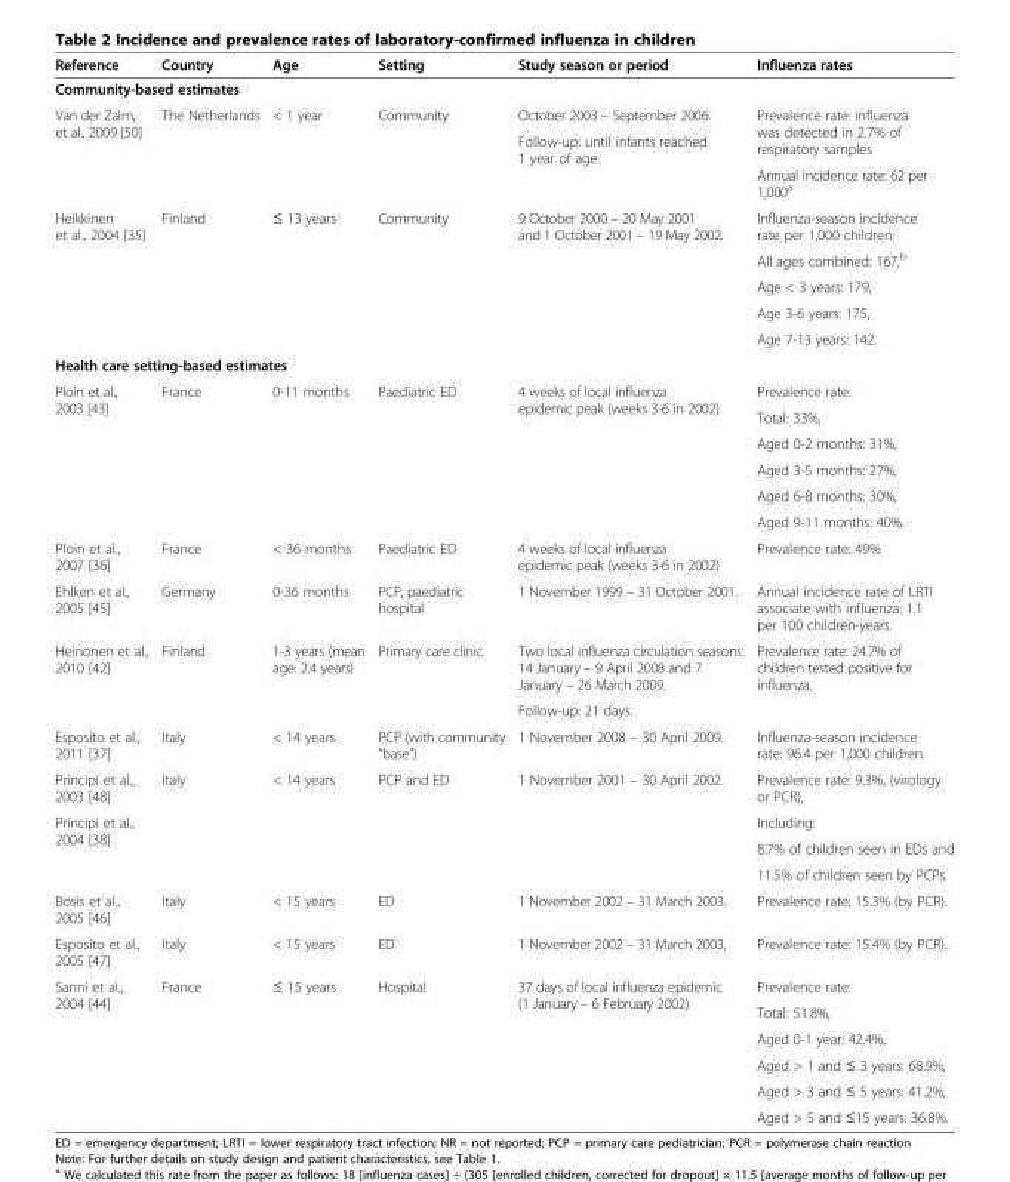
<table><thead><tr><td>Reference</td><td>Country</td><td>Age</td><td>Setting</td><td>Study season or period</td><td>Influenza rates</td></tr></thead><tbody><tr><td colspan="6">Community-based estimates</td></tr><tr><td rowspan="3">Van der Zalm, et al., 2009 [50]</td><td rowspan="3">The Netherlands</td><td rowspan="3">&lt; 1 year</td><td rowspan="3">Community</td><td>October 2003 – September 2006.</td><td rowspan="2">Prevalence rate: influenza was detected in 2.7% of respiratory samples</td></tr><tr><td rowspan="2">Follow-up: until infants reached 1 year of age.</td></tr><tr><td>Annual incidence rate: 62 per 1,000<sup>a</sup></td></tr><tr><td rowspan="5">Heikkinen et al., 2004 [35]</td><td rowspan="5">Finland</td><td rowspan="5">≤ 13 years</td><td rowspan="5">Community</td><td rowspan="5">9 October 2000 – 20 May 2001 and 1 October 2001 – 19 May 2002.</td><td>Influenza-season incidence rate per 1,000 children:</td></tr><tr><td>All ages combined: 167,<sup>b</sup></td></tr><tr><td>Age &lt; 3 years: 179,</td></tr><tr><td>Age 3-6 years: 175,</td></tr><tr><td>Age 7-13 years: 142.</td></tr><tr><td colspan="6">Health care setting-based estimates</td></tr><tr><td rowspan="6">Ploin et al., 2003 [43]</td><td rowspan="6">France</td><td rowspan="6">0-11 months</td><td rowspan="6">Paediatric ED</td><td rowspan="6">4 weeks of local influenza epidemic peak (weeks 3-6 in 2002)</td><td>Prevalence rate:</td></tr><tr><td>Total: 33%,</td></tr><tr><td>Aged 0-2 months: 31%,</td></tr><tr><td>Aged 3-5 months: 27%,</td></tr><tr><td>Aged 6-8 months: 30%,</td></tr><tr><td>Aged 9-11 months: 40%.</td></tr><tr><td>Ploin et al., 2007 [36]</td><td>France</td><td>&lt; 36 months</td><td>Paediatric ED</td><td>4 weeks of local influenza epidemic peak (weeks 3-6 in 2002)</td><td>Prevalence rate: 49%</td></tr><tr><td>Ehlken et al., 2005 [45]</td><td>Germany</td><td>0-36 months</td><td>PCP, paediatric hospital</td><td>1 November 1999 – 31 October 2001.</td><td>Annual incidence rate of LRTI associate with influenza: 1.1 per 100 children-years.</td></tr><tr><td rowspan="2">Heinonen et al., 2010 [42]</td><td rowspan="2">Finland</td><td rowspan="2">1-3 years (mean age: 2.4 years)</td><td rowspan="2">Primary care clinic</td><td>Two local influenza circulation seasons: 14 January – 9 April 2008 and 7 January – 26 March 2009.</td><td rowspan="2">Prevalence rate: 24.7% of children tested positive for influenza.</td></tr><tr><td>Follow-up: 21 days.</td></tr><tr><td>Esposito et al., 2011 [37]</td><td>Italy</td><td>&lt; 14 years</td><td>PCP (with community “base”)</td><td>1 November 2008 – 30 April 2009.</td><td>Influenza-season incidence rate: 96.4 per 1,000 children.</td></tr><tr><td>Principi et al., 2003 [48]</td><td rowspan="4">Italy</td><td rowspan="4">&lt; 14 years</td><td rowspan="4">PCP and ED</td><td rowspan="4">1 November 2001 – 30 April 2002.</td><td>Prevalence rate: 9.3%, (virology or PCR),</td></tr><tr><td rowspan="3">Principi et al., 2004 [38]</td><td>Including:</td></tr><tr><td>8.7% of children seen in EDs and</td></tr><tr><td>11.5% of children seen by PCPs.</td></tr><tr><td>Bosis et al., 2005 [46]</td><td>Italy</td><td>&lt; 15 years</td><td>ED</td><td>1 November 2002 – 31 March 2003.</td><td>Prevalence rate; 15.3% (by PCR).</td></tr><tr><td>Esposito et al., 2005 [47]</td><td>Italy</td><td>&lt; 15 years</td><td>ED</td><td>1 November 2002 – 31 March 2003.</td><td>Prevalence rate: 15.4% (by PCR).</td></tr><tr><td rowspan="6">Sanni et al., 2004 [44]</td><td rowspan="5">France</td><td rowspan="5">≤ 15 years</td><td rowspan="5">Hospital</td><td rowspan="5">37 days of local influenza epidemic (1 January – 6 February 2002)</td><td>Prevalence rate:</td></tr><tr><td>Total: 51.8%,</td></tr><tr><td>Aged 0-1 year: 42.4%,</td></tr><tr><td>Aged &gt; 1 and ≤ 3 years: 68.9%,</td></tr><tr><td>Aged &gt; 3 and ≤ 5 years: 41.2%,</td></tr><tr><td></td><td></td><td></td><td></td><td>Aged &gt; 5 and ≤15 years: 36.8%.</td></tr></tbody></table>